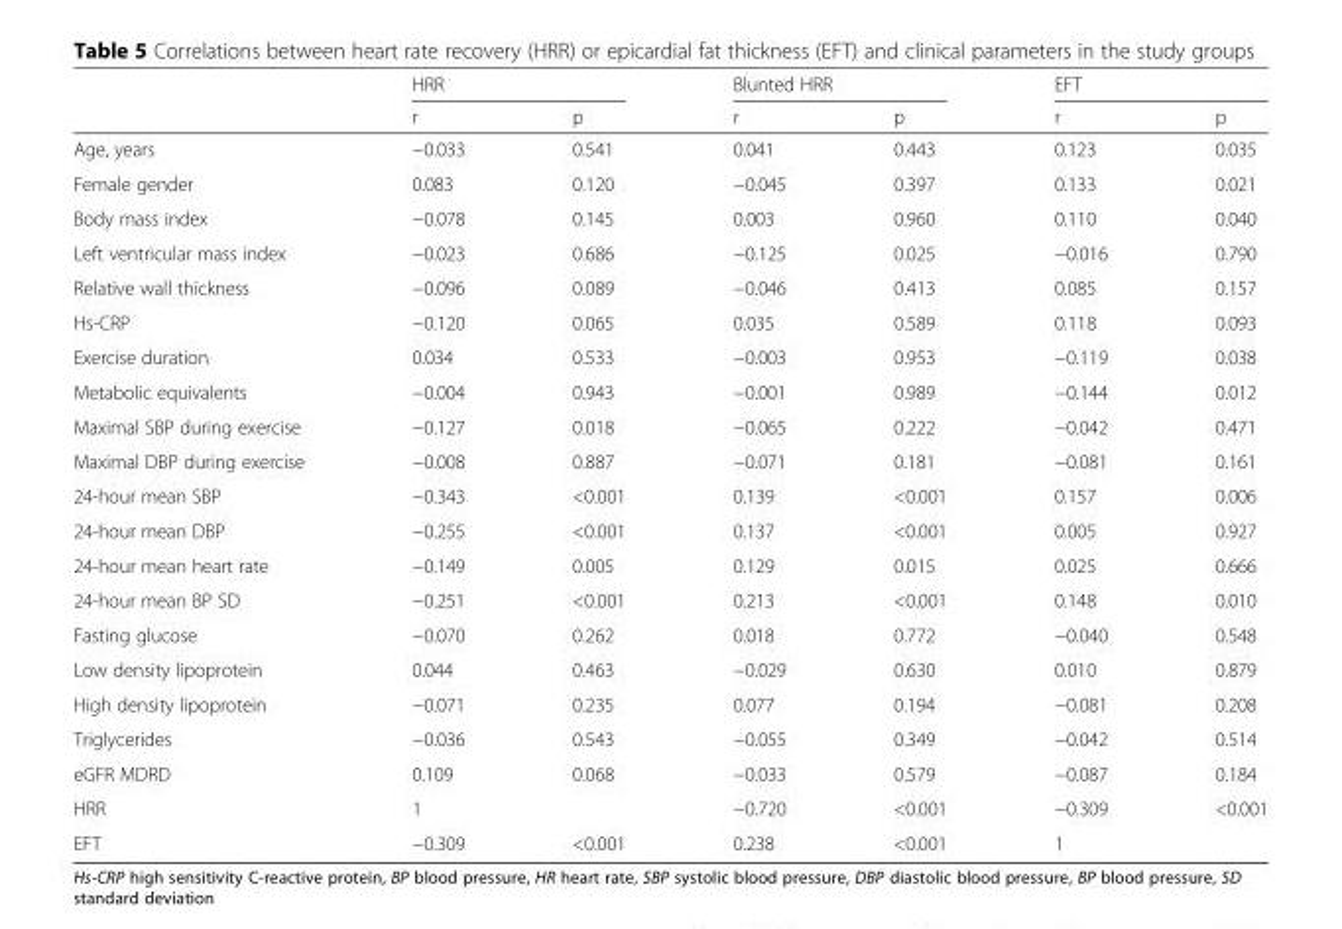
<table><thead><tr><td rowspan="2"></td><td colspan="2">HRR</td><td colspan="2">Blunted HRR</td><td colspan="2">EFT</td></tr><tr><td>r</td><td>p</td><td>r</td><td>p</td><td>r</td><td>p</td></tr></thead><tbody><tr><td>Age, years</td><td>−0.033</td><td>0.541</td><td>0.041</td><td>0.443</td><td>0.123</td><td>0.035</td></tr><tr><td>Female gender</td><td>0.083</td><td>0.120</td><td>−0.045</td><td>0.397</td><td>0.133</td><td>0.021</td></tr><tr><td>Body mass index</td><td>−0.078</td><td>0.145</td><td>0.003</td><td>0.960</td><td>0.110</td><td>0.040</td></tr><tr><td>Left ventricular mass index</td><td>−0.023</td><td>0.686</td><td>−0.125</td><td>0.025</td><td>−0.016</td><td>0.790</td></tr><tr><td>Relative wall thickness</td><td>−0.096</td><td>0.089</td><td>−0.046</td><td>0.413</td><td>0.085</td><td>0.157</td></tr><tr><td>Hs-CRP</td><td>−0.120</td><td>0.065</td><td>0.035</td><td>0.589</td><td>0.118</td><td>0.093</td></tr><tr><td>Exercise duration</td><td>0.034</td><td>0.533</td><td>−0.003</td><td>0.953</td><td>−0.119</td><td>0.038</td></tr><tr><td>Metabolic equivalents</td><td>−0.004</td><td>0.943</td><td>−0.001</td><td>0.989</td><td>−0.144</td><td>0.012</td></tr><tr><td>Maximal SBP during exercise</td><td>−0.127</td><td>0.018</td><td>−0.065</td><td>0.222</td><td>−0.042</td><td>0.471</td></tr><tr><td>Maximal DBP during exercise</td><td>−0.008</td><td>0.887</td><td>−0.071</td><td>0.181</td><td>−0.081</td><td>0.161</td></tr><tr><td>24-hour mean SBP</td><td>−0.343</td><td>&lt;0.001</td><td>0.139</td><td>&lt;0.001</td><td>0.157</td><td>0.006</td></tr><tr><td>24-hour mean DBP</td><td>−0.255</td><td>&lt;0.001</td><td>0.137</td><td>&lt;0.001</td><td>0.005</td><td>0.927</td></tr><tr><td>24-hour mean heart rate</td><td>−0.149</td><td>0.005</td><td>0.129</td><td>0.015</td><td>0.025</td><td>0.666</td></tr><tr><td>24-hour mean BP SD</td><td>−0.251</td><td>&lt;0.001</td><td>0.213</td><td>&lt;0.001</td><td>0.148</td><td>0.010</td></tr><tr><td>Fasting glucose</td><td>−0.070</td><td>0.262</td><td>0.018</td><td>0.772</td><td>−0.040</td><td>0.548</td></tr><tr><td>Low density lipoprotein</td><td>0.044</td><td>0.463</td><td>−0.029</td><td>0.630</td><td>0.010</td><td>0.879</td></tr><tr><td>High density lipoprotein</td><td>−0.071</td><td>0.235</td><td>0.077</td><td>0.194</td><td>−0.081</td><td>0.208</td></tr><tr><td>Triglycerides</td><td>−0.036</td><td>0.543</td><td>−0.055</td><td>0.349</td><td>−0.042</td><td>0.514</td></tr><tr><td>eGFR MDRD</td><td>0.109</td><td>0.068</td><td>−0.033</td><td>0.579</td><td>−0.087</td><td>0.184</td></tr><tr><td>HRR</td><td>1</td><td></td><td>−0.720</td><td>&lt;0.001</td><td>−0.309</td><td>&lt;0.001</td></tr><tr><td>EFT</td><td>−0.309</td><td>&lt;0.001</td><td>0.238</td><td>&lt;0.001</td><td>1</td><td></td></tr></tbody></table>